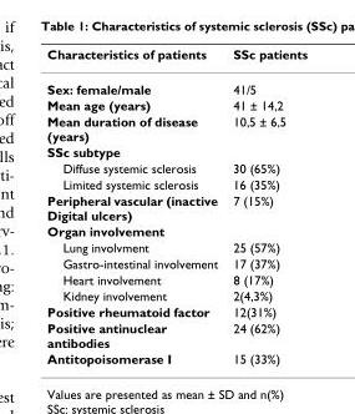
<table><thead><tr><td>Characteristics of patients</td><td>SSc patients</td></tr></thead><tbody><tr><td>Sex: female/male</td><td>41/5</td></tr><tr><td>Mean age (years)</td><td>41 ± 14,2</td></tr><tr><td>Mean duration of disease (years)</td><td>10,5 ± 6,5</td></tr><tr><td colspan="2">SSc subtype</td></tr><tr><td>Diffuse systemic sclerosis</td><td>30 (65%)</td></tr><tr><td>Limited systemic sclerosis</td><td>16 (35%)</td></tr><tr><td>Peripheral vascular (inactive Digital ulcers)</td><td>7 (15%)</td></tr><tr><td colspan="2">Organ involvement</td></tr><tr><td>Lung involvment</td><td>25 (57%)</td></tr><tr><td>Gastro-intestinal involvement</td><td>17 (37%)</td></tr><tr><td>Heart involvement</td><td>8 (17%)</td></tr><tr><td>Kidney involvement</td><td>2(4,3%)</td></tr><tr><td>Positive rheumatoid factor</td><td>12(31%)</td></tr><tr><td>Positive antinuclear antibodies</td><td>24 (62%)</td></tr><tr><td>Antitopoisomerase I</td><td>15 (33%)</td></tr></tbody></table>